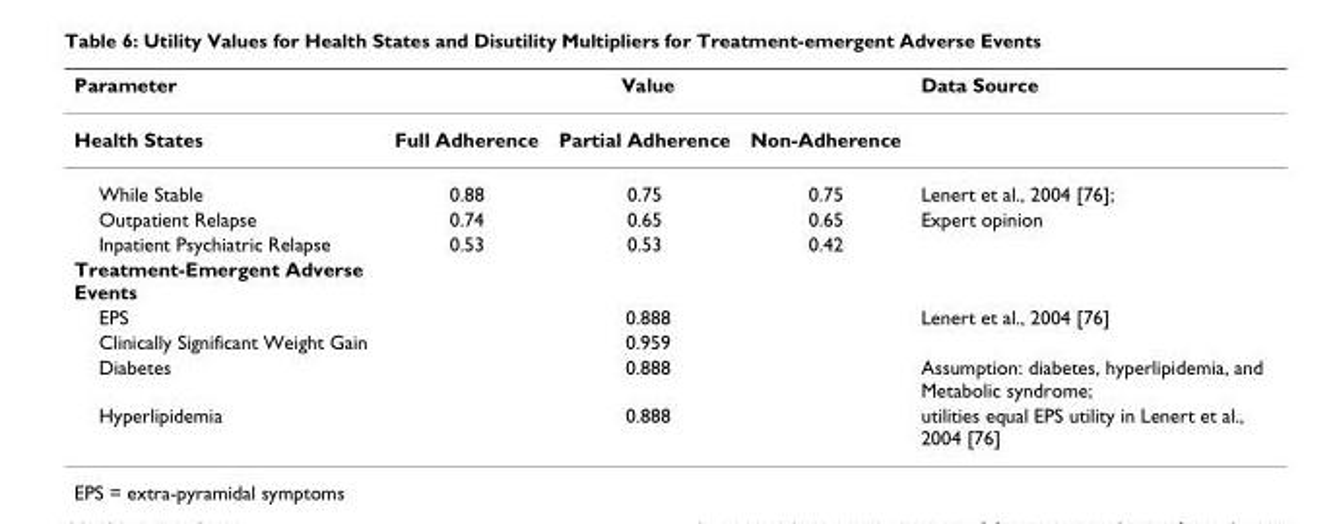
<table><thead><tr><td rowspan="2">Parameter Health States</td><td colspan="3">Value</td><td rowspan="2">Data Source</td></tr><tr><td>Full Adherence</td><td>Partial Adherence</td><td>Non-Adherence</td></tr></thead><tbody><tr><td>While Stable</td><td>0.88</td><td>0.75</td><td>0.75</td><td>Lenert et al., 2004 [76];</td></tr><tr><td>Outpatient Relapse</td><td>0.74</td><td>0.65</td><td>0.65</td><td>Expert opinion</td></tr><tr><td>Inpatient Psychiatric Relapse</td><td>0.53</td><td>0.53</td><td>0.42</td><td></td></tr><tr><td colspan="5">Treatment-Emergent Adverse Events</td></tr><tr><td>EPS</td><td colspan="3">0.888</td><td>Lenert et al., 2004 [76]</td></tr><tr><td>Clinically Significant Weight Gain</td><td colspan="3">0.959</td><td></td></tr><tr><td>Diabetes</td><td colspan="3">0.888</td><td>Assumption: diabetes, hyperlipidemia, and Metabolic syndrome;</td></tr><tr><td>Hyperlipidemia</td><td colspan="3">0.888</td><td>utilities equal EPS utility in Lenert et al., 2004 [76]</td></tr></tbody></table>